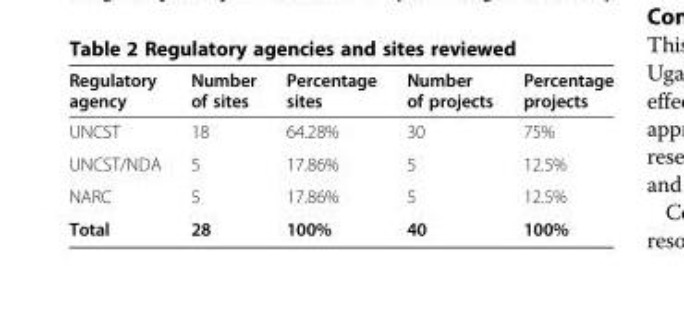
<table><thead><tr><td>Regulatory agency</td><td>Number of sites</td><td>Percentage sites</td><td>Number of projects</td><td>Percentage projects</td></tr></thead><tbody><tr><td>UNCST</td><td>18</td><td>64.28%</td><td>30</td><td>75%</td></tr><tr><td>UNCST/NDA</td><td>5</td><td>17.86%</td><td>5</td><td>12.5%</td></tr><tr><td>NARC</td><td>5</td><td>17.86%</td><td>5</td><td>12.5%</td></tr><tr><td>Total</td><td>28</td><td>100%</td><td>40</td><td>100%</td></tr></tbody></table>